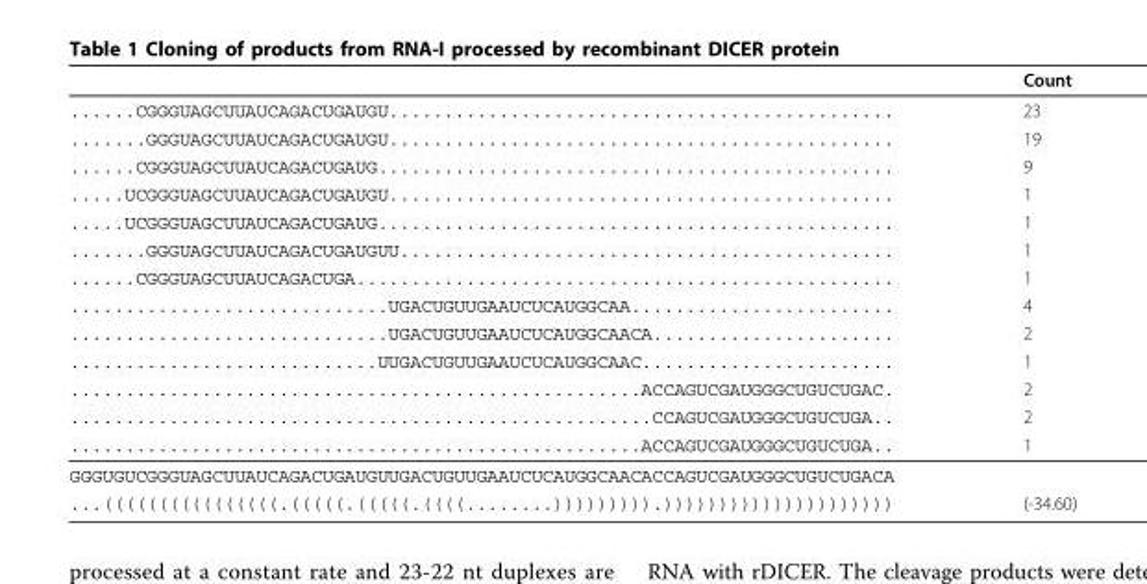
<table><thead><tr><td></td><td>Count</td></tr></thead><tbody><tr><td>......CGGGUAGCUUAUCAGACUGAUGU..............................................</td><td>23</td></tr><tr><td>.......GGGUAGCUUAUCAGACUGAUGU..............................................</td><td>19</td></tr><tr><td>......CGGGUAGCUUAUCAGACUGAUG...............................................</td><td>9</td></tr><tr><td>.....UCGGGUAGCUUAUCAGACUGAUGU..............................................</td><td>1</td></tr><tr><td>.....UCGGGUAGCUUAUCAGACUGAUG...............................................</td><td>1</td></tr><tr><td>.......GGGUAGCUUAUCAGACUGAUGUU.............................................</td><td>1</td></tr><tr><td>......CGGGUAGCUUAUCAGACUGA.................................................</td><td>1</td></tr><tr><td>.............................UGACUGUUGAAUCUCAUGGCAA........................</td><td>4</td></tr><tr><td>.............................UGACUGUUGAAUCUCAUGGCAACA......................</td><td>2</td></tr><tr><td>............................UUGACUGUUGAAUCUCAUGGCAAC.......................</td><td>1</td></tr><tr><td>....................................................ACCAGUCGAUGGGCUGUCUGAC.</td><td>2</td></tr><tr><td>.....................................................CCAGUCGAUGGGCUGUCUGA..</td><td>2</td></tr><tr><td>....................................................ACCAGUCGAUGGGCUGUCUGA..</td><td>1</td></tr><tr><td colspan="2">GGGUGUCGGGUAGCUUAUCAGACUGAUGUUGACUGUUGAAUCUCAUGGCAACACCAGUCGAUGGGCUGUCUGACA</td></tr><tr><td>...((((((((((((((((.(((((.(((((.((((........))))))))).)))))))))))))))))))))</td><td>(-34.60)</td></tr></tbody></table>